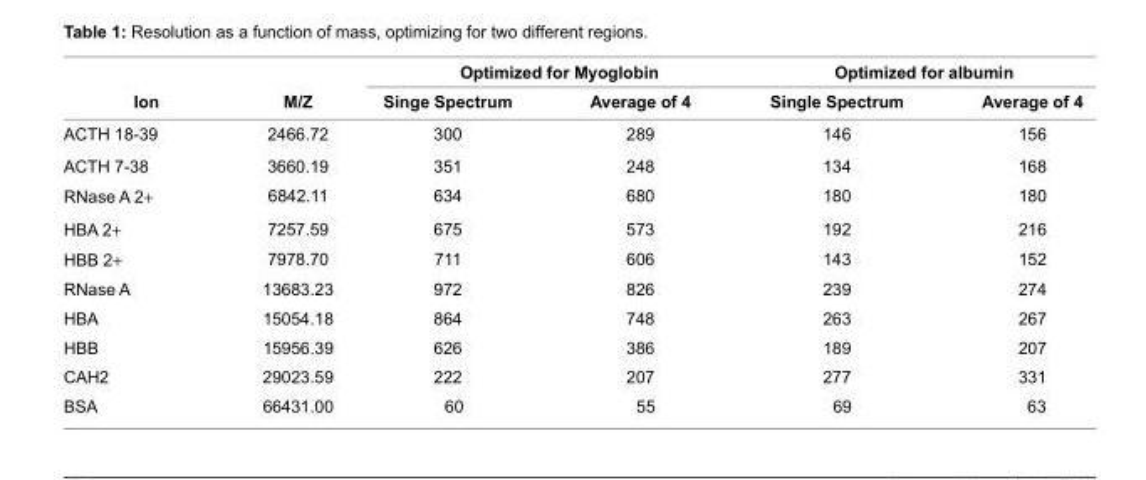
<table><thead><tr><td rowspan="2">Ion</td><td rowspan="2">M/Z</td><td colspan="2">Optimized for Myoglobin</td><td colspan="2">Optimized for albumin</td></tr><tr><td>Singe Spectrum</td><td>Average of 4</td><td>Single Spectrum</td><td>Average of 4</td></tr></thead><tbody><tr><td>ACTH 18-39</td><td>2466.72</td><td>300</td><td>289</td><td>146</td><td>156</td></tr><tr><td>ACTH 7-38</td><td>3660.19</td><td>351</td><td>248</td><td>134</td><td>168</td></tr><tr><td>RNase A 2+</td><td>6842.11</td><td>634</td><td>680</td><td>180</td><td>180</td></tr><tr><td>HBA 2+</td><td>7257.59</td><td>675</td><td>573</td><td>192</td><td>216</td></tr><tr><td>HBB 2+</td><td>7978.70</td><td>711</td><td>606</td><td>143</td><td>152</td></tr><tr><td>RNase A</td><td>13683.23</td><td>972</td><td>826</td><td>239</td><td>274</td></tr><tr><td>HBA</td><td>15054.18</td><td>864</td><td>748</td><td>263</td><td>267</td></tr><tr><td>HBB</td><td>15956.39</td><td>626</td><td>386</td><td>189</td><td>207</td></tr><tr><td>CAH2</td><td>29023.59</td><td>222</td><td>207</td><td>277</td><td>331</td></tr><tr><td>BSA</td><td>66431.00</td><td>60</td><td>55</td><td>69</td><td>63</td></tr></tbody></table>